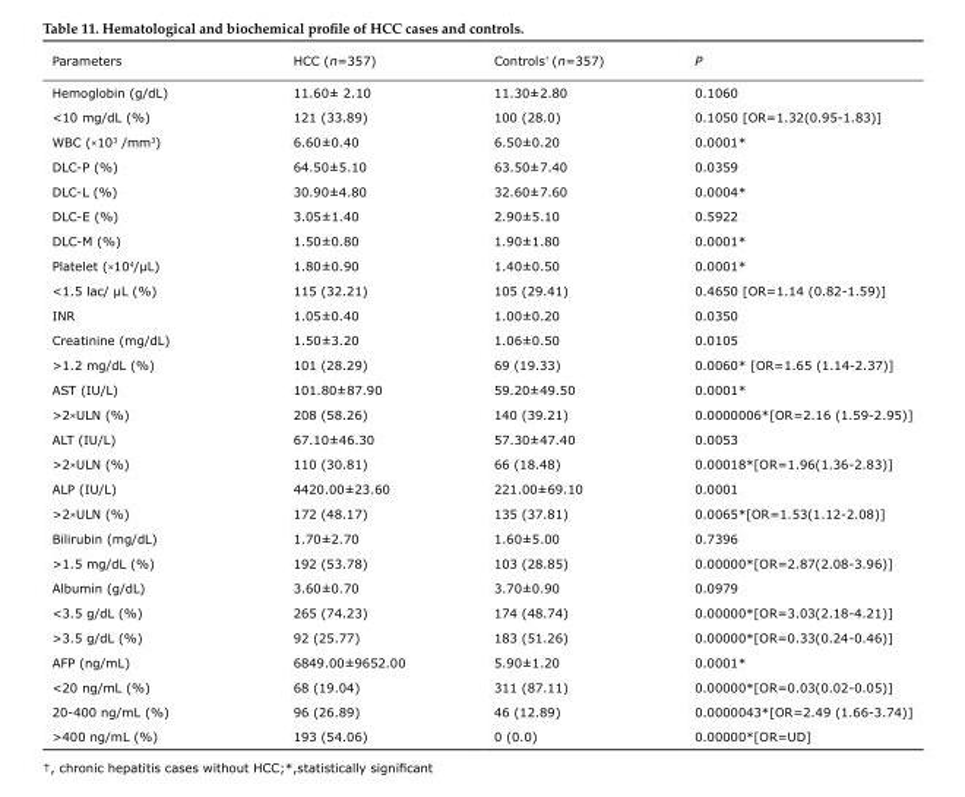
<table><thead><tr><td>Parameters</td><td>HCC (n=357)</td><td>Controls<sup>†</sup> (n=357)</td><td>P</td></tr></thead><tbody><tr><td>Hemoglobin (g/dL)</td><td>11.60± 2.10</td><td>11.30±2.80</td><td>0.1060</td></tr><tr><td>&lt;10 mg/dL (%)</td><td>121 (33.89)</td><td>100 (28.0)</td><td>0.1050 [OR=1.32(0.95-1.83)]</td></tr><tr><td>WBC (×10<sup>3</sup> /mm<sup>3</sup>)</td><td>6.60±0.40</td><td>6.50±0.20</td><td>0.0001*</td></tr><tr><td>DLC-P (%)</td><td>64.50±5.10</td><td>63.50±7.40</td><td>0.0359</td></tr><tr><td>DLC-L (%)</td><td>30.90±4.80</td><td>32.60±7.60</td><td>0.0004*</td></tr><tr><td>DLC-E (%)</td><td>3.05±1.40</td><td>2.90±5.10</td><td>0.5922</td></tr><tr><td>DLC-M (%)</td><td>1.50±0.80</td><td>1.90±1.80</td><td>0.0001*</td></tr><tr><td>Platelet (×10<sup>4</sup>/µL)</td><td>1.80±0.90</td><td>1.40±0.50</td><td>0.0001*</td></tr><tr><td>&lt;1.5 lac/ µL (%)</td><td>115 (32.21)</td><td>105 (29.41)</td><td>0.4650 [OR=1.14 (0.82-1.59)]</td></tr><tr><td>INR</td><td>1.05±0.40</td><td>1.00±0.20</td><td>0.0350</td></tr><tr><td>Creatinine (mg/dL)</td><td>1.50±3.20</td><td>1.06±0.50</td><td>0.0105</td></tr><tr><td>&gt;1.2 mg/dL (%)</td><td>101 (28.29)</td><td>69 (19.33)</td><td>0.0060* [OR=1.65 (1.14-2.37)]</td></tr><tr><td>AST (IU/L)</td><td>101.80±87.90</td><td>59.20±49.50</td><td>0.0001*</td></tr><tr><td>&gt;2×ULN (%)</td><td>208 (58.26)</td><td>140 (39.21)</td><td>0.0000006*[OR=2.16 (1.59-2.95)]</td></tr><tr><td>ALT (IU/L)</td><td>67.10±46.30</td><td>57.30±47.40</td><td>0.0053</td></tr><tr><td>&gt;2×ULN (%)</td><td>110 (30.81)</td><td>66 (18.48)</td><td>0.00018*[OR=1.96(1.36-2.83)]</td></tr><tr><td>ALP (IU/L)</td><td>4420.00±23.60</td><td>221.00±69.10</td><td>0.0001</td></tr><tr><td>&gt;2×ULN (%)</td><td>172 (48.17)</td><td>135 (37.81)</td><td>0.0065*[OR=1.53(1.12-2.08)]</td></tr><tr><td>Bilirubin (mg/dL)</td><td>1.70±2.70</td><td>1.60±5.00</td><td>0.7396</td></tr><tr><td>&gt;1.5 mg/dL (%)</td><td>192 (53.78)</td><td>103 (28.85)</td><td>0.00000*[OR=2.87(2.08-3.96)]</td></tr><tr><td>Albumin (g/dL)</td><td>3.60±0.70</td><td>3.70±0.90</td><td>0.0979</td></tr><tr><td>&lt;3.5 g/dL (%)</td><td>265 (74.23)</td><td>174 (48.74)</td><td>0.00000*[OR=3.03(2.18-4.21)]</td></tr><tr><td>&gt;3.5 g/dL (%)</td><td>92 (25.77)</td><td>183 (51.26)</td><td>0.00000*[OR=0.33(0.24-0.46)]</td></tr><tr><td>AFP (ng/mL)</td><td>6849.00±9652.00</td><td>5.90±1.20</td><td>0.0001*</td></tr><tr><td>&lt;20 ng/mL (%)</td><td>68 (19.04)</td><td>311 (87.11)</td><td>0.00000*[OR=0.03(0.02-0.05)]</td></tr><tr><td>20-400 ng/mL (%)</td><td>96 (26.89)</td><td>46 (12.89)</td><td>0.0000043*[OR=2.49 (1.66-3.74)]</td></tr><tr><td>&gt;400 ng/mL (%)</td><td>193 (54.06)</td><td>0 (0.0)</td><td>0.00000*[OR=UD]</td></tr></tbody></table>